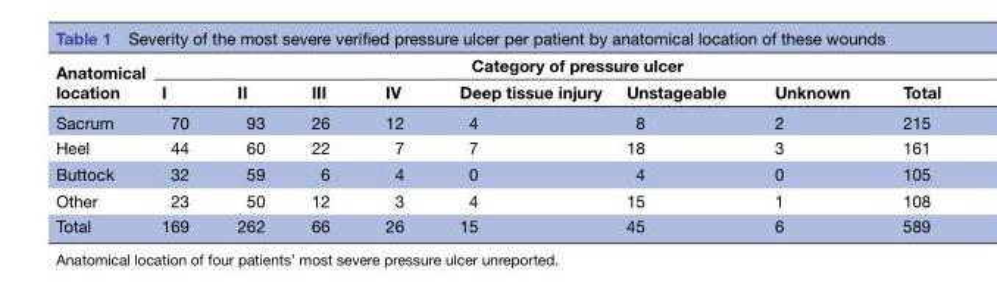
<table><thead><tr><td rowspan="2">Anatomical location</td><td colspan="8">Category of pressure ulcer</td></tr><tr><td>I</td><td>II</td><td>III</td><td>IV</td><td>Deep tissue injury</td><td>Unstageable</td><td>Unknown</td><td>Total</td></tr></thead><tbody><tr><td>Sacrum</td><td>70</td><td>93</td><td>26</td><td>12</td><td>4</td><td>8</td><td>2</td><td>215</td></tr><tr><td>Heel</td><td>44</td><td>60</td><td>22</td><td>7</td><td>7</td><td>18</td><td>3</td><td>161</td></tr><tr><td>Buttock</td><td>32</td><td>59</td><td>6</td><td>4</td><td>0</td><td>4</td><td>0</td><td>105</td></tr><tr><td>Other</td><td>23</td><td>50</td><td>12</td><td>3</td><td>4</td><td>15</td><td>1</td><td>108</td></tr><tr><td>Total</td><td>169</td><td>262</td><td>66</td><td>26</td><td>15</td><td>45</td><td>6</td><td>589</td></tr></tbody></table>